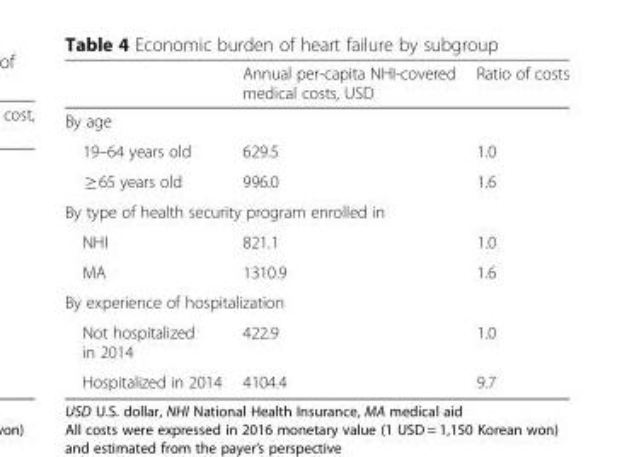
<table><thead><tr><td></td><td>Annual per-capita NHI-covered medical costs, USD</td><td>Ratio of costs</td></tr></thead><tbody><tr><td colspan="3">By age</td></tr><tr><td>19–64 years old</td><td>629.5</td><td>1.0</td></tr><tr><td>≥ 65 years old</td><td>996.0</td><td>1.6</td></tr><tr><td colspan="3">By type of health security program enrolled in</td></tr><tr><td>NHI</td><td>821.1</td><td>1.0</td></tr><tr><td>MA</td><td>1310.9</td><td>1.6</td></tr><tr><td colspan="3">By experience of hospitalization</td></tr><tr><td>Not hospitalized in 2014</td><td>422.9</td><td>1.0</td></tr><tr><td>Hospitalized in 2014</td><td>4104.4</td><td>9.7</td></tr></tbody></table>